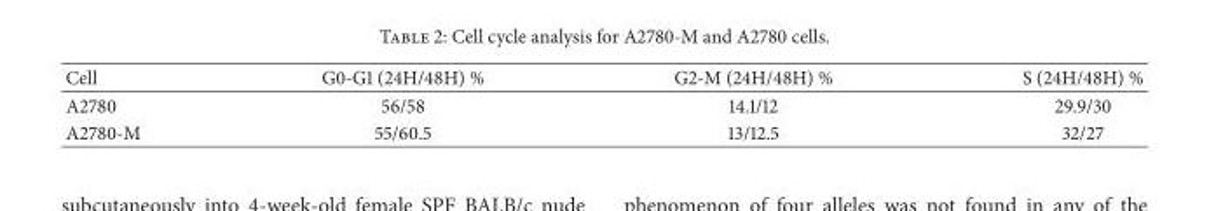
<table><thead><tr><td>Cell</td><td>G0-G1 (24H/48H) %</td><td>G2-M (24H/48H) %</td><td>S (24H/48H) %</td></tr></thead><tbody><tr><td>A2780</td><td>56/58</td><td>14.1/12</td><td>29.9/30</td></tr><tr><td>A2780-M</td><td>55/60.5</td><td>13/12.5</td><td>32/27</td></tr></tbody></table>